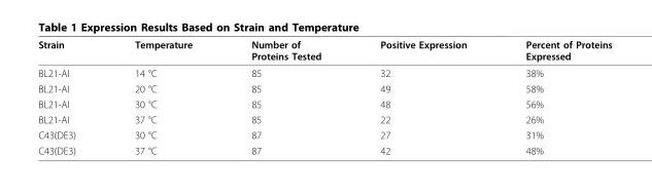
<table><thead><tr><td>Strain</td><td>Temperature</td><td>Number of Proteins Tested</td><td>Positive Expression</td><td>Percent of Proteins Expressed</td></tr></thead><tbody><tr><td>BL21-AI</td><td>14 °C</td><td>85</td><td>32</td><td>38%</td></tr><tr><td>BL21-AI</td><td>20 °C</td><td>85</td><td>49</td><td>58%</td></tr><tr><td>BL21-AI</td><td>30 °C</td><td>85</td><td>48</td><td>56%</td></tr><tr><td>BL21-AI</td><td>37 °C</td><td>85</td><td>22</td><td>26%</td></tr><tr><td>C43(DE3)</td><td>30 °C</td><td>87</td><td>27</td><td>31%</td></tr><tr><td>C43(DE3)</td><td>37 °C</td><td>87</td><td>42</td><td>48%</td></tr></tbody></table>